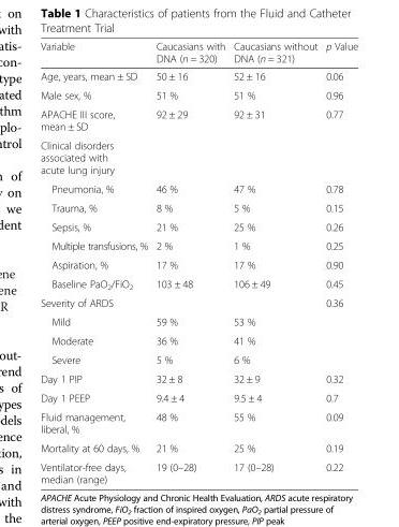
<table><thead><tr><td>Variable</td><td>Caucasians with DNA (n = 320)</td><td>Caucasians without DNA (n = 321)</td><td>p Value</td></tr></thead><tbody><tr><td>Age, years, mean ± SD</td><td>50 ± 16</td><td>52 ± 16</td><td>0.06</td></tr><tr><td>Male sex, %</td><td>51 %</td><td>51 %</td><td>0.96</td></tr><tr><td>APACHE III score, mean ± SD</td><td>92 ± 29</td><td>92 ± 31</td><td>0.77</td></tr><tr><td colspan="4">Clinical disorders associated with acute lung injury</td></tr><tr><td>Pneumonia, %</td><td>46 %</td><td>47 %</td><td>0.78</td></tr><tr><td>Trauma, %</td><td>8 %</td><td>5 %</td><td>0.15</td></tr><tr><td>Sepsis, %</td><td>21 %</td><td>25 %</td><td>0.26</td></tr><tr><td>Multiple transfusions, %</td><td>2 %</td><td>1 %</td><td>0.25</td></tr><tr><td>Aspiration, %</td><td>17 %</td><td>17 %</td><td>0.90</td></tr><tr><td>Baseline PaO<sub>2</sub>/FiO<sub>2</sub></td><td>103 ± 48</td><td>106 ± 49</td><td>0.45</td></tr><tr><td>Severity of ARDS</td><td></td><td></td><td>0.36</td></tr><tr><td>Mild</td><td>59 %</td><td>53 %</td><td></td></tr><tr><td>Moderate</td><td>36 %</td><td>41 %</td><td></td></tr><tr><td>Severe</td><td>5 %</td><td>6 %</td><td></td></tr><tr><td>Day 1 PIP</td><td>32 ± 8</td><td>32 ± 9</td><td>0.32</td></tr><tr><td>Day 1 PEEP</td><td>9.4 ± 4</td><td>9.5 ± 4</td><td>0.7</td></tr><tr><td>Fluid management, liberal, %</td><td>48 %</td><td>55 %</td><td>0.09</td></tr><tr><td>Mortality at 60 days, %</td><td>21 %</td><td>25 %</td><td>0.19</td></tr><tr><td>Ventilator-free days, median (range)</td><td>19 (0–28)</td><td>17 (0–28)</td><td>0.22</td></tr></tbody></table>